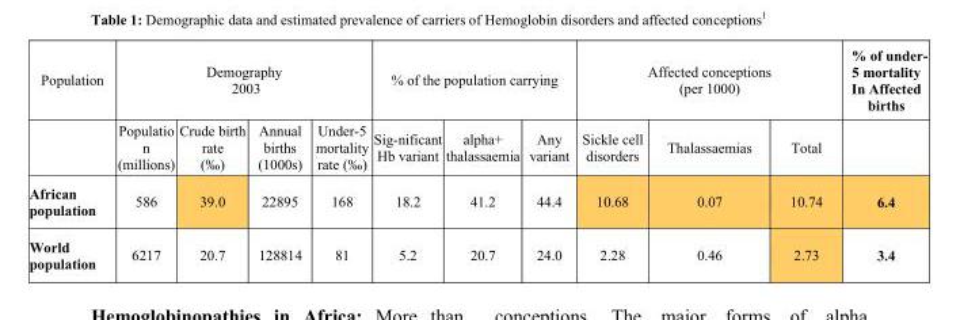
<table><thead><tr><td rowspan="2">Population</td><td colspan="4">Demography 2003</td><td colspan="3">% of the population carrying</td><td colspan="3">Affected conceptions (per 1000)</td><td rowspan="2">% of under- 5 mortality In Affected births</td></tr><tr><td>Populatio n (millions)</td><td>Crude birth rate (‰)</td><td>Annual births (1000s)</td><td>Under-5 mortality rate (‰)</td><td>Sig-nificant Hb variant</td><td>alpha+ thalassaemia</td><td>Any variant</td><td>Sickle cell disorders</td><td>Thalassaemias</td><td>Total</td></tr></thead><tbody><tr><td>African population</td><td>586</td><td>39.0</td><td>22895</td><td>168</td><td>18.2</td><td>41.2</td><td>44.4</td><td>10.68</td><td>0.07</td><td>10.74</td><td>6.4</td></tr><tr><td>World population</td><td>6217</td><td>20.7</td><td>128814</td><td>81</td><td>5.2</td><td>20.7</td><td>24.0</td><td>2.28</td><td>0.46</td><td>2.73</td><td>3.4</td></tr></tbody></table>